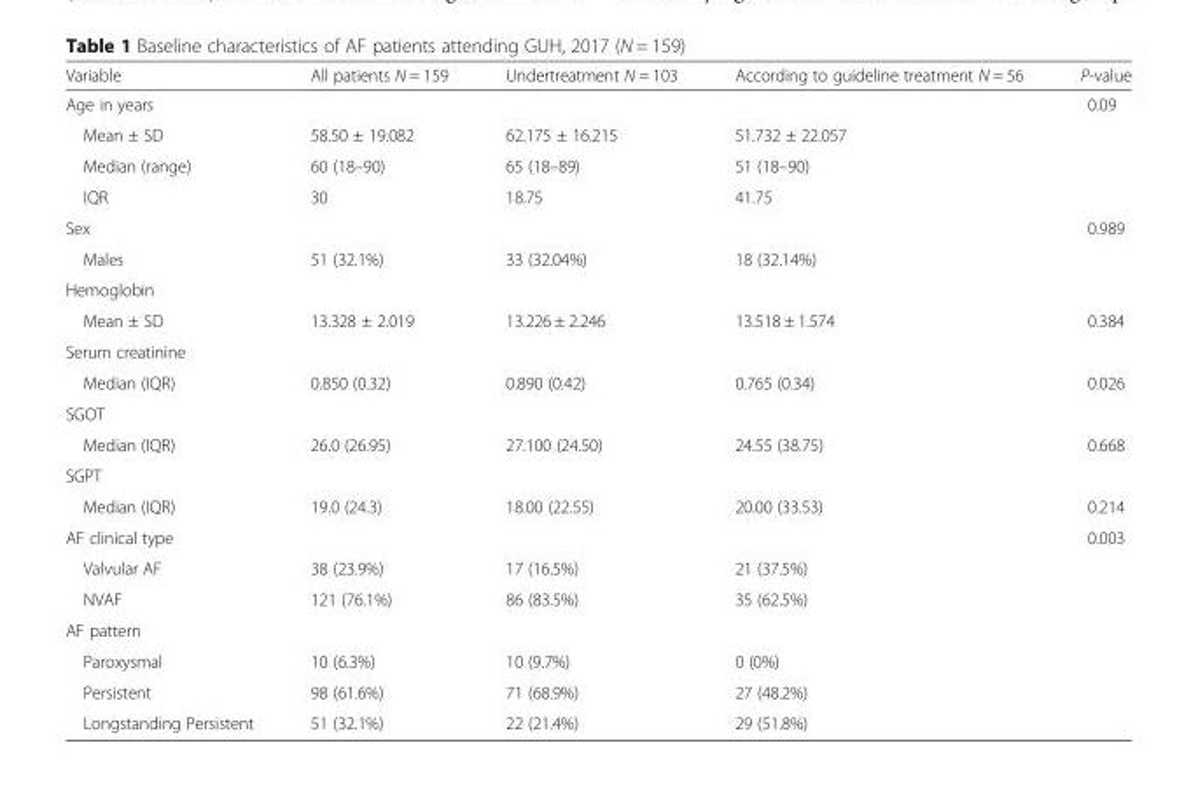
<table><thead><tr><td>Variable</td><td>All patients N = 159</td><td>Undertreatment N = 103</td><td>According to guideline treatment N = 56</td><td>P-value</td></tr></thead><tbody><tr><td colspan="4">Age in years</td><td>0.09</td></tr><tr><td>Mean ± SD</td><td>58.50 ± 19.082</td><td>62.175 ± 16.215</td><td>51.732 ± 22.057</td><td rowspan="3"></td></tr><tr><td>Median (range)</td><td>60 (18–90)</td><td>65 (18–89)</td><td>51 (18–90)</td></tr><tr><td>IQR</td><td>30</td><td>18.75</td><td>41.75</td></tr><tr><td colspan="4">Sex</td><td>0.989</td></tr><tr><td>Males</td><td>51 (32.1%)</td><td>33 (32.04%)</td><td>18 (32.14%)</td><td></td></tr><tr><td colspan="5">Hemoglobin</td></tr><tr><td>Mean ± SD</td><td>13.328 ± 2.019</td><td>13.226 ± 2.246</td><td>13.518 ± 1.574</td><td>0.384</td></tr><tr><td colspan="5">Serum creatinine</td></tr><tr><td>Median (IQR)</td><td>0.850 (0.32)</td><td>0.890 (0.42)</td><td>0.765 (0.34)</td><td>0.026</td></tr><tr><td colspan="5">SGOT</td></tr><tr><td>Median (IQR)</td><td>26.0 (26.95)</td><td>27.100 (24.50)</td><td>24.55 (38.75)</td><td>0.668</td></tr><tr><td colspan="5">SGPT</td></tr><tr><td>Median (IQR)</td><td>19.0 (24.3)</td><td>18.00 (22.55)</td><td>20.00 (33.53)</td><td>0.214</td></tr><tr><td colspan="4">AF clinical type</td><td>0.003</td></tr><tr><td>Valvular AF</td><td>38 (23.9%)</td><td>17 (16.5%)</td><td>21 (37.5%)</td><td rowspan="2"></td></tr><tr><td>NVAF</td><td>121 (76.1%)</td><td>86 (83.5%)</td><td>35 (62.5%)</td></tr><tr><td colspan="5">AF pattern</td></tr><tr><td>Paroxysmal</td><td>10 (6.3%)</td><td>10 (9.7%)</td><td>0 (0%)</td><td rowspan="3"></td></tr><tr><td>Persistent</td><td>98 (61.6%)</td><td>71 (68.9%)</td><td>27 (48.2%)</td></tr><tr><td>Longstanding Persistent</td><td>51 (32.1%)</td><td>22 (21.4%)</td><td>29 (51.8%)</td></tr></tbody></table>